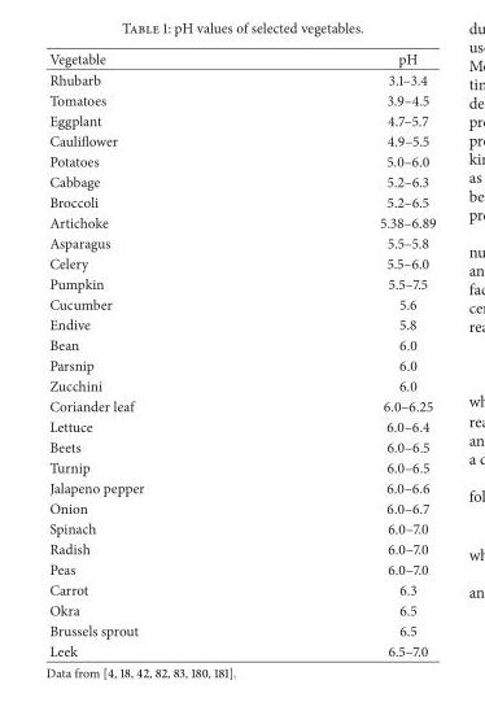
<table><thead><tr><td>Vegetable</td><td>pH</td></tr></thead><tbody><tr><td>Rhubarb</td><td>3.1–3.4</td></tr><tr><td>Tomatoes</td><td>3.9–4.5</td></tr><tr><td>Eggplant</td><td>4.7–5.7</td></tr><tr><td>Cauliflower</td><td>4.9–5.5</td></tr><tr><td>Potatoes</td><td>5.0–6.0</td></tr><tr><td>Cabbage</td><td>5.2–6.3</td></tr><tr><td>Broccoli</td><td>5.2–6.5</td></tr><tr><td>Artichoke</td><td>5.38–6.89</td></tr><tr><td>Asparagus</td><td>5.5–5.8</td></tr><tr><td>Celery</td><td>5.5–6.0</td></tr><tr><td>Pumpkin</td><td>5.5–7.5</td></tr><tr><td>Cucumber</td><td>5.6</td></tr><tr><td>Endive</td><td>5.8</td></tr><tr><td>Bean</td><td>6.0</td></tr><tr><td>Parsnip</td><td>6.0</td></tr><tr><td>Zucchini</td><td>6.0</td></tr><tr><td>Coriander leaf</td><td>6.0–6.25</td></tr><tr><td>Lettuce</td><td>6.0–6.4</td></tr><tr><td>Beets</td><td>6.0–6.5</td></tr><tr><td>Turnip</td><td>6.0–6.5</td></tr><tr><td>Jalapeno pepper</td><td>6.0–6.6</td></tr><tr><td>Onion</td><td>6.0–6.7</td></tr><tr><td>Spinach</td><td>6.0–7.0</td></tr><tr><td>Radish</td><td>6.0–7.0</td></tr><tr><td>Peas</td><td>6.0–7.0</td></tr><tr><td>Carrot</td><td>6.3</td></tr><tr><td>Okra</td><td>6.5</td></tr><tr><td>Brussels sprout</td><td>6.5</td></tr><tr><td>Leek</td><td>6.5–7.0</td></tr></tbody></table>